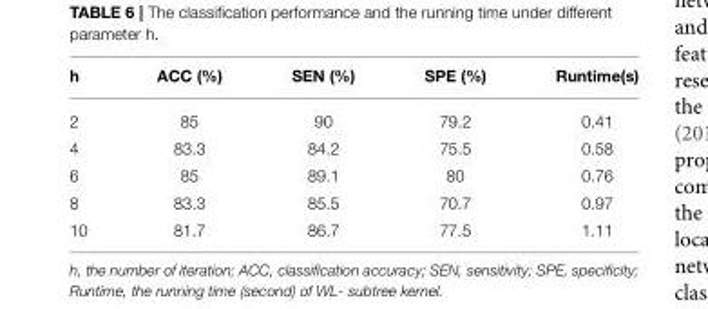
<table><thead><tr><td>h</td><td>ACC (%)</td><td>SEN (%)</td><td>SPE (%)</td><td>Runtime(s)</td></tr></thead><tbody><tr><td>2</td><td>85</td><td>90</td><td>79.2</td><td>0.41</td></tr><tr><td>4</td><td>83.3</td><td>84.2</td><td>75.5</td><td>0.58</td></tr><tr><td>6</td><td>85</td><td>89.1</td><td>80</td><td>0.76</td></tr><tr><td>8</td><td>83.3</td><td>85.5</td><td>70.7</td><td>0.97</td></tr><tr><td>10</td><td>81.7</td><td>86.7</td><td>77.5</td><td>1.11</td></tr></tbody></table>